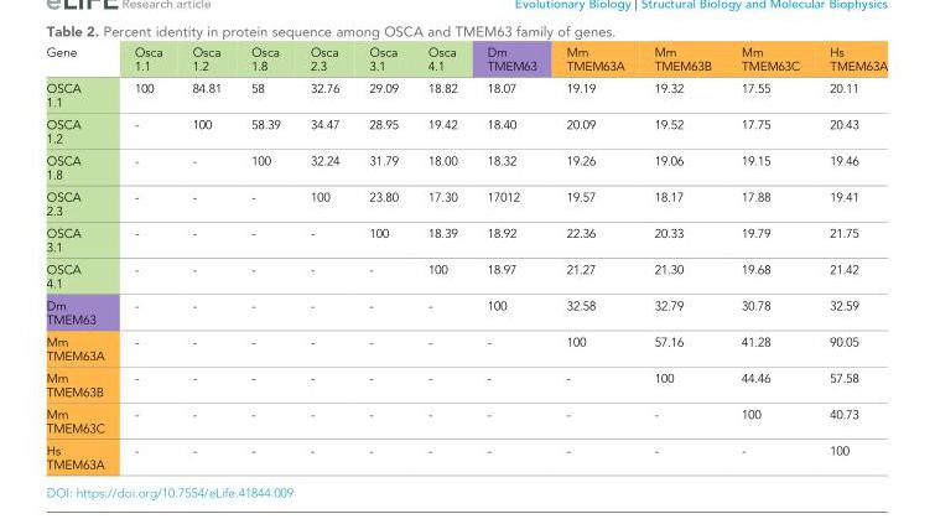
<table><tbody><tr><td>Gene</td><td>Osca 1.1</td><td>Osca 1.2</td><td>Osca 1.8</td><td>Osca 2.3</td><td>Osca 3.1</td><td>Osca 4.1</td><td>Dm TMEM63</td><td>Mm TMEM63A</td><td>Mm TMEM63B</td><td>Mm TMEM63C</td><td>Hs TMEM63A</td></tr><tr><td>OSCA 1.1</td><td>100</td><td>84.81</td><td>58</td><td>32.76</td><td>29.09</td><td>18.82</td><td>18.07</td><td>19.19</td><td>19.32</td><td>17.55</td><td>20.11</td></tr><tr><td>OSCA 1.2</td><td>-</td><td>100</td><td>58.39</td><td>34.47</td><td>28.95</td><td>19.42</td><td>18.40</td><td>20.09</td><td>19.52</td><td>17.75</td><td>20.43</td></tr><tr><td>OSCA 1.8</td><td>-</td><td>-</td><td>100</td><td>32.24</td><td>31.79</td><td>18.00</td><td>18.32</td><td>19.26</td><td>19.06</td><td>19.15</td><td>19.46</td></tr><tr><td>OSCA 2.3</td><td>-</td><td>-</td><td>-</td><td>100</td><td>23.80</td><td>17.30</td><td>17012</td><td>19.57</td><td>18.17</td><td>17.88</td><td>19.41</td></tr><tr><td>OSCA 3.1</td><td>-</td><td>-</td><td>-</td><td>-</td><td>100</td><td>18.39</td><td>18.92</td><td>22.36</td><td>20.33</td><td>19.79</td><td>21.75</td></tr><tr><td>OSCA 4.1</td><td>-</td><td>-</td><td>-</td><td>-</td><td>-</td><td>100</td><td>18.97</td><td>21.27</td><td>21.30</td><td>19.68</td><td>21.42</td></tr><tr><td>Dm TMEM63</td><td>-</td><td>-</td><td>-</td><td>-</td><td>-</td><td>-</td><td>100</td><td>32.58</td><td>32.79</td><td>30.78</td><td>32.59</td></tr><tr><td>Mm TMEM63A</td><td>-</td><td>-</td><td>-</td><td>-</td><td>-</td><td>-</td><td>-</td><td>100</td><td>57.16</td><td>41.28</td><td>90.05</td></tr><tr><td>Mm TMEM63B</td><td>-</td><td>-</td><td>-</td><td>-</td><td>-</td><td>-</td><td>-</td><td>-</td><td>100</td><td>44.46</td><td>57.58</td></tr><tr><td>Mm TMEM63C</td><td>-</td><td>-</td><td>-</td><td>-</td><td>-</td><td>-</td><td>-</td><td>-</td><td>-</td><td>100</td><td>40.73</td></tr><tr><td>Hs TMEM63A</td><td>-</td><td>-</td><td>-</td><td>-</td><td>-</td><td>-</td><td>-</td><td>-</td><td>-</td><td>-</td><td>100</td></tr></tbody></table>